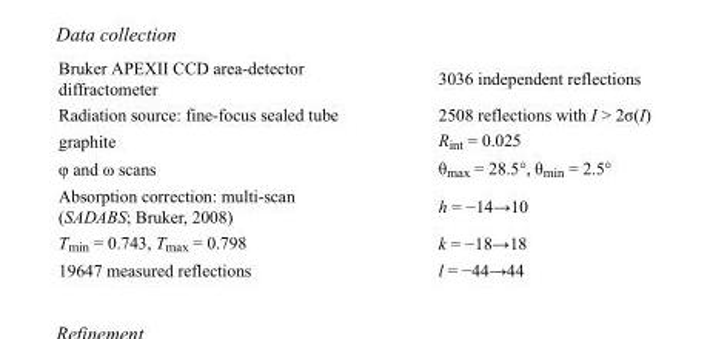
<table><tbody><tr><td>Bruker APEXII CCD area-detector diffractometer</td><td>3036 independent reflections</td></tr><tr><td>Radiation source: fine-focus sealed tube</td><td>2508 reflections with I &gt; 2σ(I)</td></tr><tr><td>graphite</td><td>R<sub>int</sub> = 0.025</td></tr><tr><td>φ and ω scans</td><td>θ<sub>max</sub> = 28.5°, θ<sub>min</sub> = 2.5°</td></tr><tr><td>Absorption correction: multi-scan (SADABS; Bruker, 2008)</td><td>h = −14→10</td></tr><tr><td>T<sub>min</sub> = 0.743, T<sub>max</sub> = 0.798</td><td>k = −18→18</td></tr><tr><td>19647 measured reflections</td><td>l = −44→44</td></tr></tbody></table>